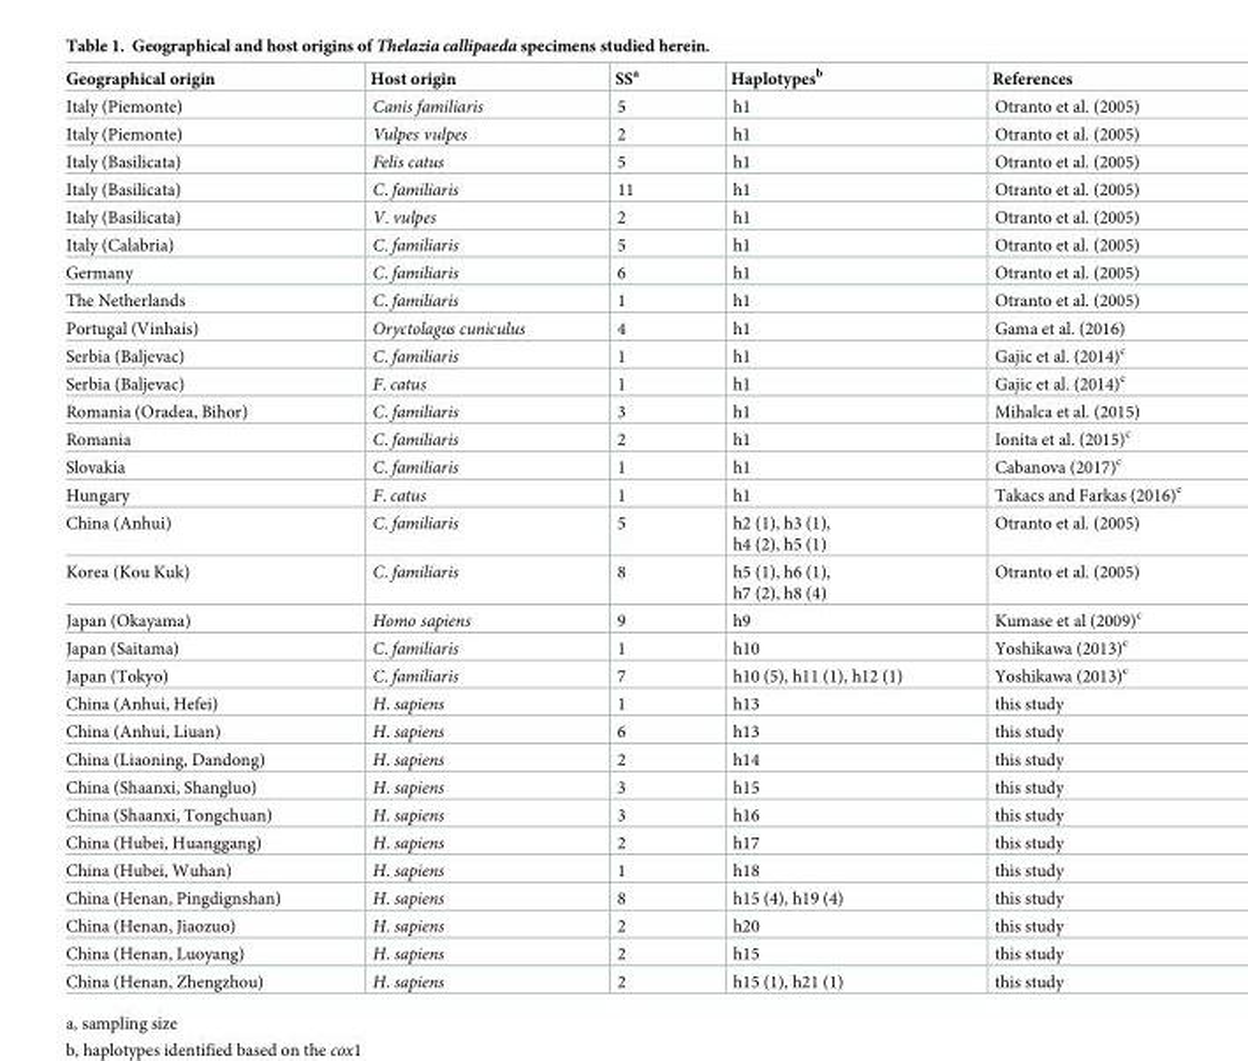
<table><thead><tr><td>Geographical origin</td><td>Host origin</td><td>SS<sup>a</sup></td><td>Haplotypes<sup>b</sup></td><td>References</td></tr></thead><tbody><tr><td>Italy (Piemonte)</td><td>Canis familiaris</td><td>5</td><td>h1</td><td>Otranto et al. (2005)</td></tr><tr><td>Italy (Piemonte)</td><td>Vulpes vulpes</td><td>2</td><td>h1</td><td>Otranto et al. (2005)</td></tr><tr><td>Italy (Basilicata)</td><td>Felis catus</td><td>5</td><td>h1</td><td>Otranto et al. (2005)</td></tr><tr><td>Italy (Basilicata)</td><td>C. familiaris</td><td>11</td><td>h1</td><td>Otranto et al. (2005)</td></tr><tr><td>Italy (Basilicata)</td><td>V. vulpes</td><td>2</td><td>h1</td><td>Otranto et al. (2005)</td></tr><tr><td>Italy (Calabria)</td><td>C. familiaris</td><td>5</td><td>h1</td><td>Otranto et al. (2005)</td></tr><tr><td>Germany</td><td>C. familiaris</td><td>6</td><td>h1</td><td>Otranto et al. (2005)</td></tr><tr><td>The Netherlands</td><td>C. familiaris</td><td>1</td><td>h1</td><td>Otranto et al. (2005)</td></tr><tr><td>Portugal (Vinhais)</td><td>Oryctolagus cuniculus</td><td>4</td><td>h1</td><td>Gama et al. (2016)</td></tr><tr><td>Serbia (Baljevac)</td><td>C. familiaris</td><td>1</td><td>h1</td><td>Gajic et al. (2014)<sup>c</sup></td></tr><tr><td>Serbia (Baljevac)</td><td>F. catus</td><td>1</td><td>h1</td><td>Gajic et al. (2014)<sup>c</sup></td></tr><tr><td>Romania (Oradea, Bihor)</td><td>C. familiaris</td><td>3</td><td>h1</td><td>Mihalca et al. (2015)</td></tr><tr><td>Romania</td><td>C. familiaris</td><td>2</td><td>h1</td><td>Ionita et al. (2015)<sup>c</sup></td></tr><tr><td>Slovakia</td><td>C. familiaris</td><td>1</td><td>h1</td><td>Cabanova (2017)<sup>c</sup></td></tr><tr><td>Hungary</td><td>F. catus</td><td>1</td><td>h1</td><td>Takacs and Farkas (2016)<sup>c</sup></td></tr><tr><td>China (Anhui)</td><td>C. familiaris</td><td>5</td><td>h2 (1), h3 (1), h4 (2), h5 (1)</td><td>Otranto et al. (2005)</td></tr><tr><td>Korea (Kou Kuk)</td><td>C. familiaris</td><td>8</td><td>h5 (1), h6 (1), h7 (2), h8 (4)</td><td>Otranto et al. (2005)</td></tr><tr><td>Japan (Okayama)</td><td>Homo sapiens</td><td>9</td><td>h9</td><td>Kumase et al (2009)<sup>c</sup></td></tr><tr><td>Japan (Saitama)</td><td>C. familiaris</td><td>1</td><td>h10</td><td>Yoshikawa (2013)<sup>c</sup></td></tr><tr><td>Japan (Tokyo)</td><td>C. familiaris</td><td>7</td><td>h10 (5), h11 (1), h12 (1)</td><td>Yoshikawa (2013)<sup>c</sup></td></tr><tr><td>China (Anhui, Hefei)</td><td>H. sapiens</td><td>1</td><td>h13</td><td>this study</td></tr><tr><td>China (Anhui, Liuan)</td><td>H. sapiens</td><td>6</td><td>h13</td><td>this study</td></tr><tr><td>China (Liaoning, Dandong)</td><td>H. sapiens</td><td>2</td><td>h14</td><td>this study</td></tr><tr><td>China (Shaanxi, Shangluo)</td><td>H. sapiens</td><td>3</td><td>h15</td><td>this study</td></tr><tr><td>China (Shaanxi, Tongchuan)</td><td>H. sapiens</td><td>3</td><td>h16</td><td>this study</td></tr><tr><td>China (Hubei, Huanggang)</td><td>H. sapiens</td><td>2</td><td>h17</td><td>this study</td></tr><tr><td>China (Hubei, Wuhan)</td><td>H. sapiens</td><td>1</td><td>h18</td><td>this study</td></tr><tr><td>China (Henan, Pingdignshan)</td><td>H. sapiens</td><td>8</td><td>h15 (4), h19 (4)</td><td>this study</td></tr><tr><td>China (Henan, Jiaozuo)</td><td>H. sapiens</td><td>2</td><td>h20</td><td>this study</td></tr><tr><td>China (Henan, Luoyang)</td><td>H. sapiens</td><td>2</td><td>h15</td><td>this study</td></tr><tr><td>China (Henan, Zhengzhou)</td><td>H. sapiens</td><td>2</td><td>h15 (1), h21 (1)</td><td>this study</td></tr></tbody></table>